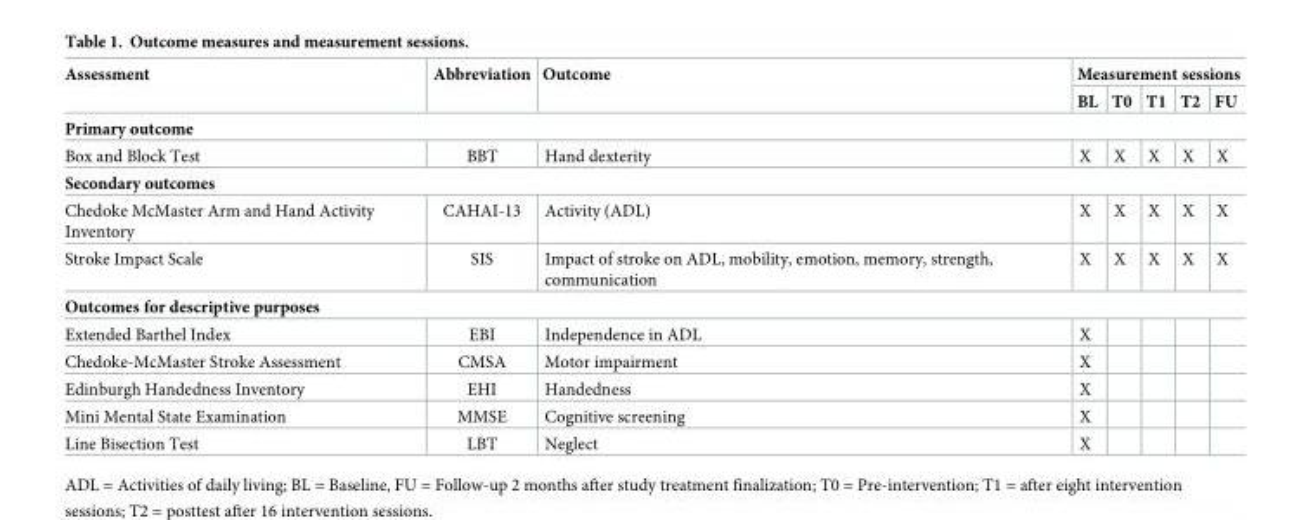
<table><thead><tr><td rowspan="2">Assessment</td><td rowspan="2">Abbreviation</td><td rowspan="2">Outcome</td><td colspan="5">Measurement sessions</td></tr><tr><td>BL</td><td>T0</td><td>T1</td><td>T2</td><td>FU</td></tr></thead><tbody><tr><td colspan="8">Primary outcome</td></tr><tr><td>Box and Block Test</td><td>BBT</td><td>Hand dexterity</td><td>X</td><td>X</td><td>X</td><td>X</td><td>X</td></tr><tr><td colspan="8">Secondary outcomes</td></tr><tr><td>Chedoke McMaster Arm and Hand Activity Inventory</td><td>CAHAI-13</td><td>Activity (ADL)</td><td>X</td><td>X</td><td>X</td><td>X</td><td>X</td></tr><tr><td>Stroke Impact Scale</td><td>SIS</td><td>Impact of stroke on ADL, mobility, emotion, memory, strength, communication</td><td>X</td><td>X</td><td>X</td><td>X</td><td>X</td></tr><tr><td colspan="8">Outcomes for descriptive purposes</td></tr><tr><td>Extended Barthel Index</td><td>EBI</td><td>Independence in ADL</td><td>X</td><td></td><td></td><td></td><td></td></tr><tr><td>Chedoke-McMaster Stroke Assessment</td><td>CMSA</td><td>Motor impairment</td><td>X</td><td></td><td></td><td></td><td></td></tr><tr><td>Edinburgh Handedness Inventory</td><td>EHI</td><td>Handedness</td><td>X</td><td></td><td></td><td></td><td></td></tr><tr><td>Mini Mental State Examination</td><td>MMSE</td><td>Cognitive screening</td><td>X</td><td></td><td></td><td></td><td></td></tr><tr><td>Line Bisection Test</td><td>LBT</td><td>Neglect</td><td>X</td><td></td><td></td><td></td><td></td></tr></tbody></table>